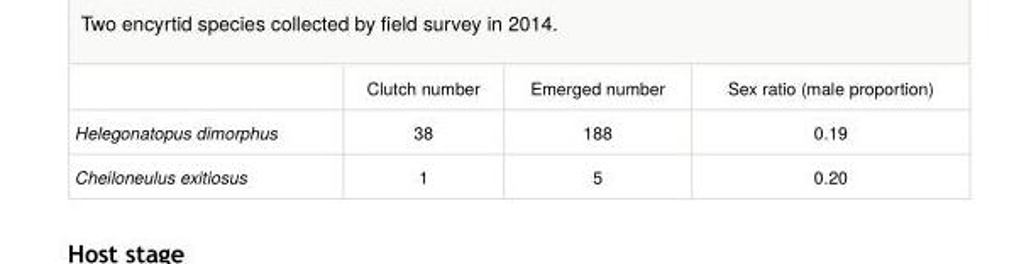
<table><thead><tr><td></td><td>Clutch number</td><td>Emerged number</td><td>Sex ratio (male proportion)</td></tr></thead><tbody><tr><td>Helegonatopus dimorphus</td><td>38</td><td>188</td><td>0.19</td></tr><tr><td>Cheiloneulus exitiosus</td><td>1</td><td>5</td><td>0.20</td></tr></tbody></table>